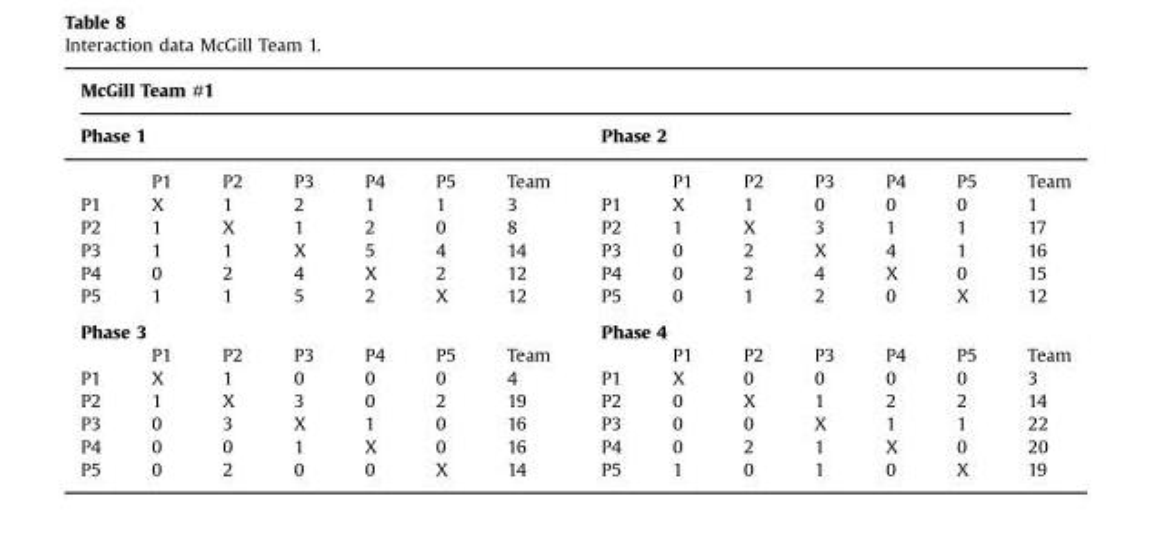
<table><thead><tr><td colspan="14">McGill Team #1</td></tr><tr><td colspan="7">Phase 1</td><td colspan="7">Phase 2</td></tr><tr><td></td><td>P1</td><td>P2</td><td>P3</td><td>P4</td><td>P5</td><td>Team</td><td></td><td>P1</td><td>P2</td><td>P3</td><td>P4</td><td>P5</td><td>Team</td></tr></thead><tbody><tr><td>P1</td><td>X</td><td>1</td><td>2</td><td>1</td><td>1</td><td>3</td><td>P1</td><td>X</td><td>1</td><td>0</td><td>0</td><td>0</td><td>1</td></tr><tr><td>P2</td><td>1</td><td>X</td><td>1</td><td>2</td><td>0</td><td>8</td><td>P2</td><td>1</td><td>X</td><td>3</td><td>1</td><td>1</td><td>17</td></tr><tr><td>P3</td><td>1</td><td>1</td><td>X</td><td>5</td><td>4</td><td>14</td><td>P3</td><td>0</td><td>2</td><td>X</td><td>4</td><td>1</td><td>16</td></tr><tr><td>P4</td><td>0</td><td>2</td><td>4</td><td>X</td><td>2</td><td>12</td><td>P4</td><td>0</td><td>2</td><td>4</td><td>X</td><td>0</td><td>15</td></tr><tr><td>P5</td><td>1</td><td>1</td><td>5</td><td>2</td><td>X</td><td>12</td><td>P5</td><td>0</td><td>1</td><td>2</td><td>0</td><td>X</td><td>12</td></tr><tr><td colspan="7">Phase 3</td><td colspan="7">Phase 4</td></tr><tr><td></td><td>P1</td><td>P2</td><td>P3</td><td>P4</td><td>P5</td><td>Team</td><td></td><td>P1</td><td>P2</td><td>P3</td><td>P4</td><td>P5</td><td>Team</td></tr><tr><td>P1</td><td>X</td><td>1</td><td>0</td><td>0</td><td>0</td><td>4</td><td>P1</td><td>X</td><td>0</td><td>0</td><td>0</td><td>0</td><td>3</td></tr><tr><td>P2</td><td>1</td><td>X</td><td>3</td><td>0</td><td>2</td><td>19</td><td>P2</td><td>0</td><td>X</td><td>1</td><td>2</td><td>2</td><td>14</td></tr><tr><td>P3</td><td>0</td><td>3</td><td>X</td><td>1</td><td>0</td><td>16</td><td>P3</td><td>0</td><td>0</td><td>X</td><td>1</td><td>1</td><td>22</td></tr><tr><td>P4</td><td>0</td><td>0</td><td>1</td><td>X</td><td>0</td><td>16</td><td>P4</td><td>0</td><td>2</td><td>1</td><td>X</td><td>0</td><td>20</td></tr><tr><td>P5</td><td>0</td><td>2</td><td>0</td><td>0</td><td>X</td><td>14</td><td>P5</td><td>1</td><td>0</td><td>1</td><td>0</td><td>X</td><td>19</td></tr></tbody></table>